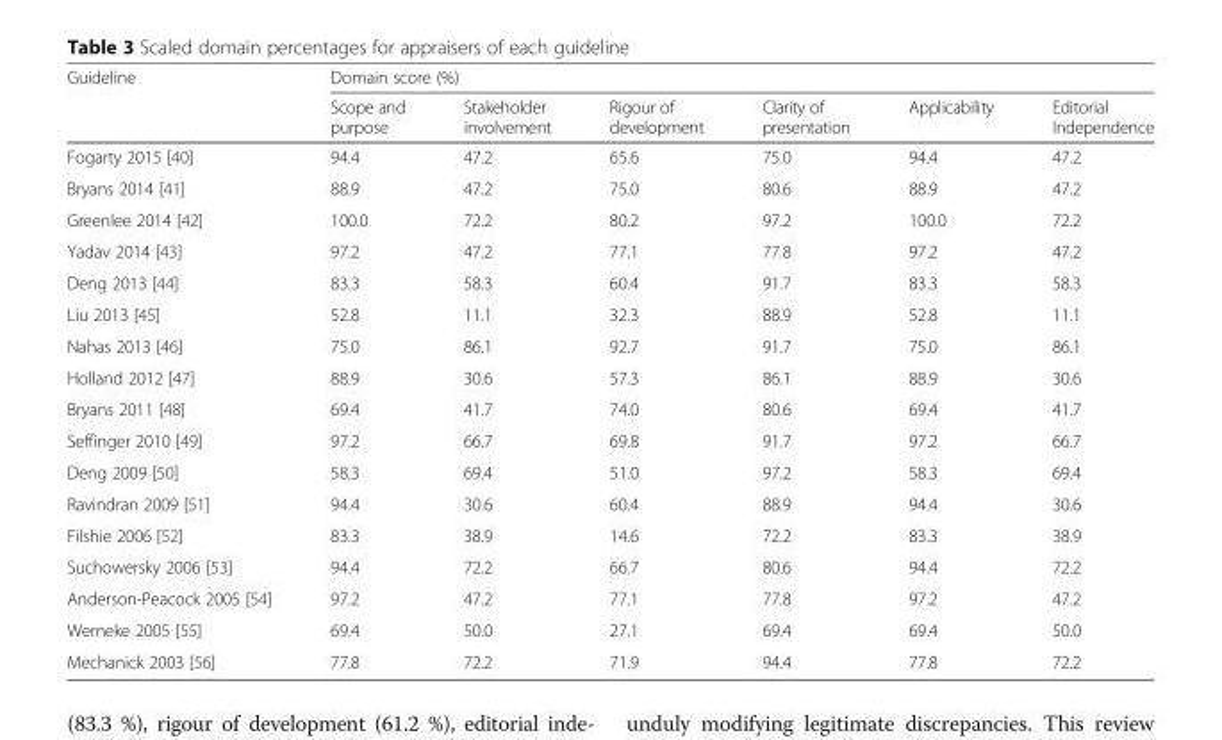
<table><thead><tr><td rowspan="2">Guideline</td><td colspan="6">Domain score (%)</td></tr><tr><td>Scope and purpose</td><td>Stakeholder involvement</td><td>Rigour of development</td><td>Clarity of presentation</td><td>Applicability</td><td>Editorial Independence</td></tr></thead><tbody><tr><td>Fogarty 2015 [40]</td><td>94.4</td><td>47.2</td><td>65.6</td><td>75.0</td><td>94.4</td><td>47.2</td></tr><tr><td>Bryans 2014 [41]</td><td>88.9</td><td>47.2</td><td>75.0</td><td>80.6</td><td>88.9</td><td>47.2</td></tr><tr><td>Greenlee 2014 [42]</td><td>100.0</td><td>72.2</td><td>80.2</td><td>97.2</td><td>100.0</td><td>72.2</td></tr><tr><td>Yadav 2014 [43]</td><td>97.2</td><td>47.2</td><td>77.1</td><td>77.8</td><td>97.2</td><td>47.2</td></tr><tr><td>Deng 2013 [44]</td><td>83.3</td><td>58.3</td><td>60.4</td><td>91.7</td><td>83.3</td><td>58.3</td></tr><tr><td>Liu 2013 [45]</td><td>52.8</td><td>11.1</td><td>32.3</td><td>88.9</td><td>52.8</td><td>11.1</td></tr><tr><td>Nahas 2013 [46]</td><td>75.0</td><td>86.1</td><td>92.7</td><td>91.7</td><td>75.0</td><td>86.1</td></tr><tr><td>Holland 2012 [47]</td><td>88.9</td><td>30.6</td><td>57.3</td><td>86.1</td><td>88.9</td><td>30.6</td></tr><tr><td>Bryans 2011 [48]</td><td>69.4</td><td>41.7</td><td>74.0</td><td>80.6</td><td>69.4</td><td>41.7</td></tr><tr><td>Seffinger 2010 [49]</td><td>97.2</td><td>66.7</td><td>69.8</td><td>91.7</td><td>97.2</td><td>66.7</td></tr><tr><td>Deng 2009 [50]</td><td>58.3</td><td>69.4</td><td>51.0</td><td>97.2</td><td>58.3</td><td>69.4</td></tr><tr><td>Ravindran 2009 [51]</td><td>94.4</td><td>30.6</td><td>60.4</td><td>88.9</td><td>94.4</td><td>30.6</td></tr><tr><td>Filshie 2006 [52]</td><td>83.3</td><td>38.9</td><td>14.6</td><td>72.2</td><td>83.3</td><td>38.9</td></tr><tr><td>Suchowersky 2006 [53]</td><td>94.4</td><td>72.2</td><td>66.7</td><td>80.6</td><td>94.4</td><td>72.2</td></tr><tr><td>Anderson-Peacock 2005 [54]</td><td>97.2</td><td>47.2</td><td>77.1</td><td>77.8</td><td>97.2</td><td>47.2</td></tr><tr><td>Werneke 2005 [55]</td><td>69.4</td><td>50.0</td><td>27.1</td><td>69.4</td><td>69.4</td><td>50.0</td></tr><tr><td>Mechanick 2003 [56]</td><td>77.8</td><td>72.2</td><td>71.9</td><td>94.4</td><td>77.8</td><td>72.2</td></tr></tbody></table>